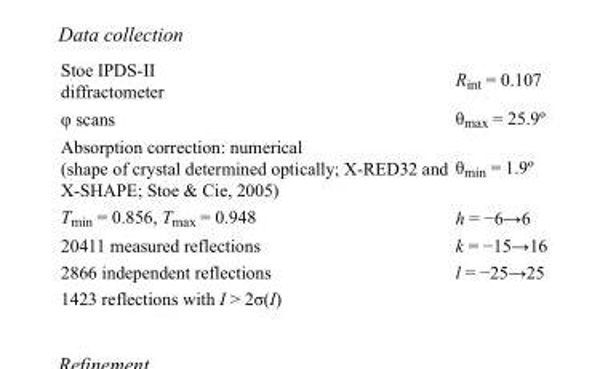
<table><tbody><tr><td>Stoe IPDS-II diffractometer</td><td>R<sub>int</sub> = 0.107</td></tr><tr><td>φ scans</td><td>θ<sub>max</sub> = 25.9º</td></tr><tr><td>Absorption correction: numerical (shape of crystal determined optically; X-RED32 and X-SHAPE; Stoe &amp; Cie, 2005)</td><td>θ<sub>min</sub> = 1.9º</td></tr><tr><td>T<sub>min</sub> = 0.856, T<sub>max</sub> = 0.948</td><td>h = −6→6</td></tr><tr><td>20411 measured reflections</td><td>k = −15→16</td></tr><tr><td>2866 independent reflections</td><td>l = −25→25</td></tr><tr><td>1423 reflections with I &gt; 2σ(I)</td><td></td></tr></tbody></table>